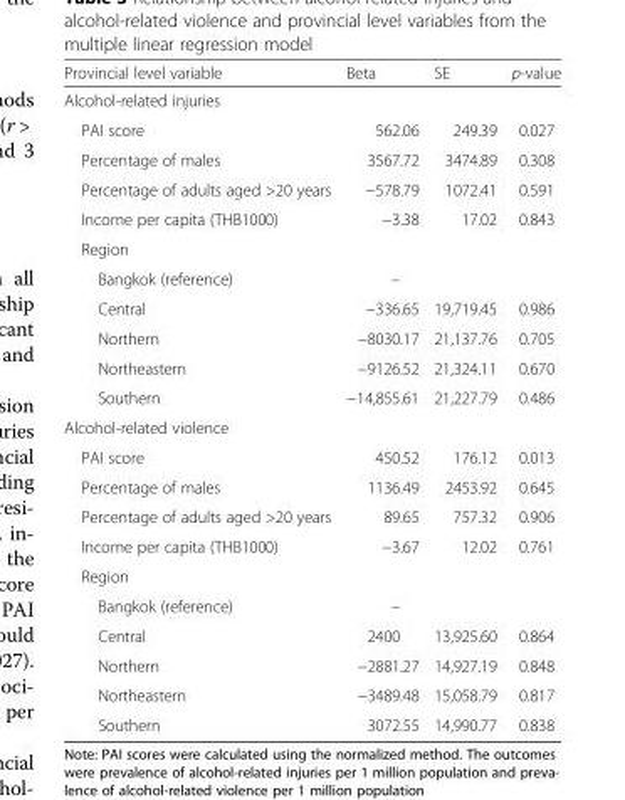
<table><thead><tr><td>Provincial level variable</td><td>Beta</td><td>SE</td><td>p-value</td></tr></thead><tbody><tr><td colspan="4">Alcohol-related injuries</td></tr><tr><td>PAI score</td><td>562.06</td><td>249.39</td><td>0.027</td></tr><tr><td>Percentage of males</td><td>3567.72</td><td>3474.89</td><td>0.308</td></tr><tr><td>Percentage of adults aged &gt;20 years</td><td>−578.79</td><td>1072.41</td><td>0.591</td></tr><tr><td>Income per capita (THB1000)</td><td>−3.38</td><td>17.02</td><td>0.843</td></tr><tr><td colspan="4">Region</td></tr><tr><td>Bangkok (reference)</td><td>–</td><td></td><td></td></tr><tr><td>Central</td><td>−336.65</td><td>19,719.45</td><td>0.986</td></tr><tr><td>Northern</td><td>−8030.17</td><td>21,137.76</td><td>0.705</td></tr><tr><td>Northeastern</td><td>−9126.52</td><td>21,324.11</td><td>0.670</td></tr><tr><td>Southern</td><td>−14,855.61</td><td>21,227.79</td><td>0.486</td></tr><tr><td colspan="4">Alcohol-related violence</td></tr><tr><td>PAI score</td><td>450.52</td><td>176.12</td><td>0.013</td></tr><tr><td>Percentage of males</td><td>1136.49</td><td>2453.92</td><td>0.645</td></tr><tr><td>Percentage of adults aged &gt;20 years</td><td>89.65</td><td>757.32</td><td>0.906</td></tr><tr><td>Income per capita (THB1000)</td><td>−3.67</td><td>12.02</td><td>0.761</td></tr><tr><td colspan="4">Region</td></tr><tr><td>Bangkok (reference)</td><td>–</td><td></td><td></td></tr><tr><td>Central</td><td>2400</td><td>13,925.60</td><td>0.864</td></tr><tr><td>Northern</td><td>−2881.27</td><td>14,927.19</td><td>0.848</td></tr><tr><td>Northeastern</td><td>−3489.48</td><td>15,058.79</td><td>0.817</td></tr><tr><td>Southern</td><td>3072.55</td><td>14,990.77</td><td>0.838</td></tr></tbody></table>